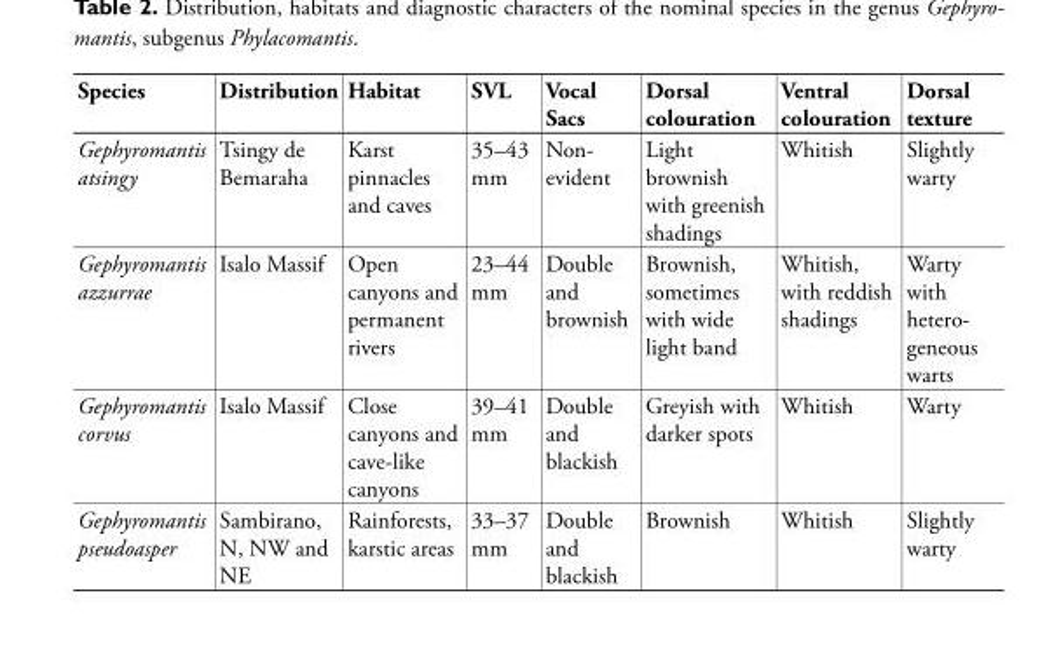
<table><thead><tr><td>Species</td><td>Distribution</td><td>Habitat</td><td>SVL</td><td>Vocal Sacs</td><td>Dorsal colouration</td><td>Ventral colouration</td><td>Dorsal texture</td></tr></thead><tbody><tr><td>Gephyromantis atsingy</td><td>Tsingy de Bemaraha</td><td>Karst pinnacles and caves</td><td>35–43 mm</td><td>Non- evident</td><td>Light brownish with greenish shadings</td><td>Whitish</td><td>Slightly warty</td></tr><tr><td>Gephyromantis azzurrae</td><td>Isalo Massif</td><td>Open canyons and permanent rivers</td><td>23–44 mm</td><td>Double and brownish</td><td>Brownish, sometimes with wide light band</td><td>Whitish, with reddish shadings</td><td>Warty with hetero- geneous warts</td></tr><tr><td>Gephyromantis corvus</td><td>Isalo Massif</td><td>Close canyons and cave-like canyons</td><td>39–41 mm</td><td>Double and blackish</td><td>Greyish with darker spots</td><td>Whitish</td><td>Warty</td></tr><tr><td>Gephyromantis pseudoasper</td><td>Sambirano, N, NW and NE</td><td>Rainforests, karstic areas</td><td>33–37 mm</td><td>Double and blackish</td><td>Brownish</td><td>Whitish</td><td>Slightly warty</td></tr></tbody></table>